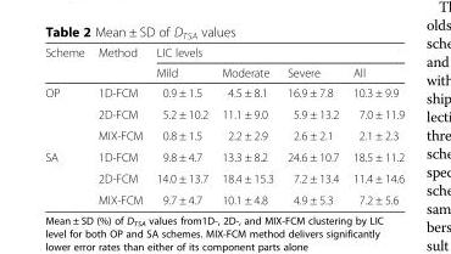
<table><thead><tr><td rowspan="2">Scheme</td><td rowspan="2">Method</td><td colspan="4">LIC levels</td></tr><tr><td>Mild</td><td>Moderate</td><td>Severe</td><td>All</td></tr></thead><tbody><tr><td rowspan="3">OP</td><td>1D-FCM</td><td>0.9 ± 1.5</td><td>4.5 ± 8.1</td><td>16.9 ± 7.8</td><td>10.3 ± 9.9</td></tr><tr><td>2D-FCM</td><td>5.2 ± 10.2</td><td>11.1 ± 9.0</td><td>5.9 ± 13.2</td><td>7.0 ± 11.9</td></tr><tr><td>MIX-FCM</td><td>0.8 ± 1.5</td><td>2.2 ± 2.9</td><td>2.6 ± 2.1</td><td>2.1 ± 2.3</td></tr><tr><td rowspan="3">SA</td><td>1D-FCM</td><td>9.8 ± 4.7</td><td>13.3 ± 8.2</td><td>24.6 ± 10.7</td><td>18.5 ± 11.2</td></tr><tr><td>2D-FCM</td><td>14.0 ± 13.7</td><td>18.4 ± 15.3</td><td>7.2 ± 13.4</td><td>11.4 ± 14.6</td></tr><tr><td>MIX-FCM</td><td>9.7 ± 4.7</td><td>10.1 ± 4.8</td><td>4.9 ± 5.3</td><td>7.2 ± 5.6</td></tr></tbody></table>